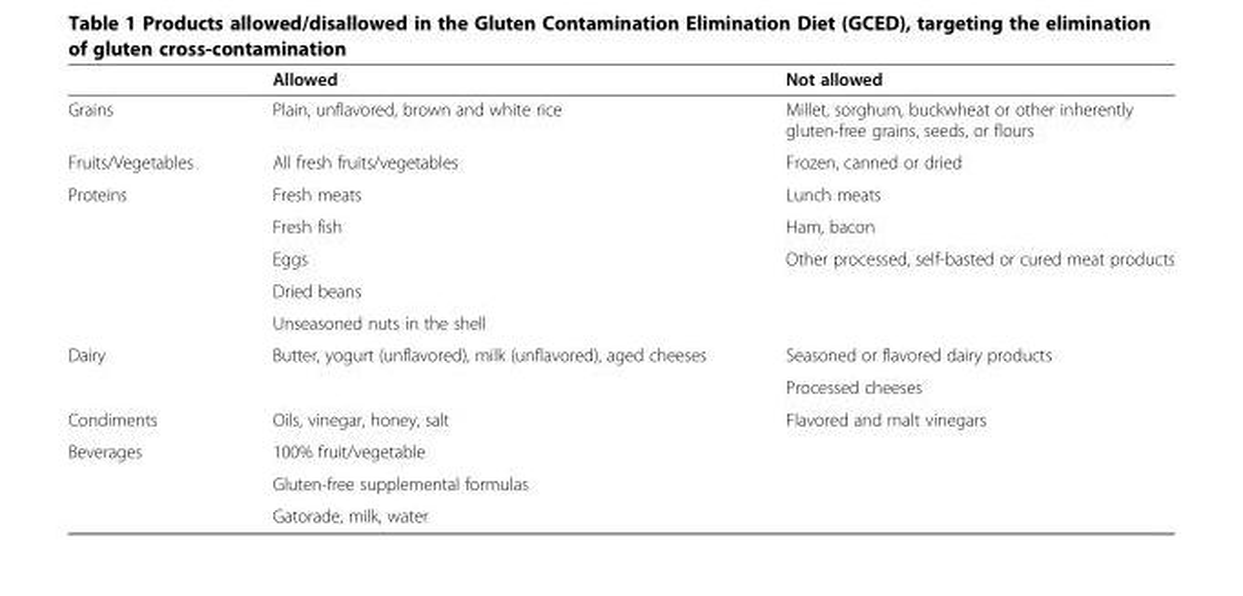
<table><thead><tr><td></td><td>Allowed</td><td>Not allowed</td></tr></thead><tbody><tr><td>Grains</td><td>Plain, unflavored, brown and white rice</td><td>Millet, sorghum, buckwheat or other inherently gluten-free grains, seeds, or flours</td></tr><tr><td>Fruits/Vegetables</td><td>All fresh fruits/vegetables</td><td>Frozen, canned or dried</td></tr><tr><td rowspan="5">Proteins</td><td>Fresh meats</td><td>Lunch meats</td></tr><tr><td>Fresh fish</td><td>Ham, bacon</td></tr><tr><td>Eggs</td><td>Other processed, self-basted or cured meat products</td></tr><tr><td>Dried beans</td><td></td></tr><tr><td>Unseasoned nuts in the shell</td><td></td></tr><tr><td rowspan="2">Dairy</td><td rowspan="2">Butter, yogurt (unflavored), milk (unflavored), aged cheeses</td><td>Seasoned or flavored dairy products</td></tr><tr><td>Processed cheeses</td></tr><tr><td>Condiments</td><td>Oils, vinegar, honey, salt</td><td>Flavored and malt vinegars</td></tr><tr><td rowspan="3">Beverages</td><td>100% fruit/vegetable</td><td rowspan="2"></td></tr><tr><td>Gluten-free supplemental formulas</td></tr><tr><td>Gatorade, milk, water</td><td></td></tr></tbody></table>